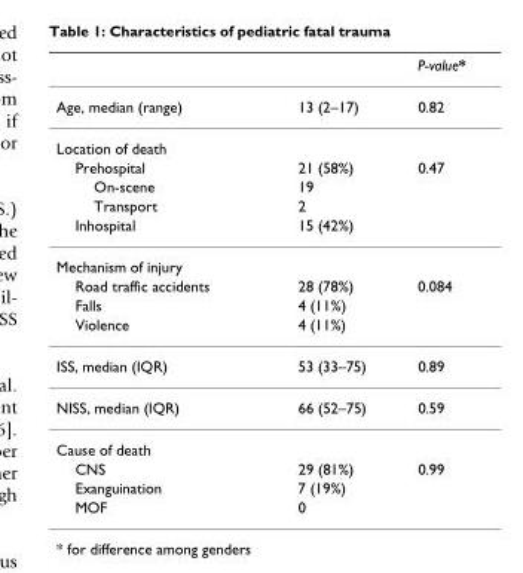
<table><thead><tr><td></td><td></td><td>P-value*</td></tr></thead><tbody><tr><td>Age, median (range)</td><td>13 (2–17)</td><td>0.82</td></tr><tr><td colspan="3">Location of death</td></tr><tr><td>Prehospital</td><td>21 (58%)</td><td>0.47</td></tr><tr><td>On-scene</td><td>19</td><td></td></tr><tr><td>Transport</td><td>2</td><td></td></tr><tr><td>Inhospital</td><td>15 (42%)</td><td></td></tr><tr><td colspan="3">Mechanism of injury</td></tr><tr><td>Road traffic accidents</td><td>28 (78%)</td><td>0.084</td></tr><tr><td>Falls</td><td>4 (11%)</td><td></td></tr><tr><td>Violence</td><td>4 (11%)</td><td></td></tr><tr><td>ISS, median (IQR)</td><td>53 (33–75)</td><td>0.89</td></tr><tr><td>NISS, median (IQR)</td><td>66 (52–75)</td><td>0.59</td></tr><tr><td colspan="3">Cause of death</td></tr><tr><td>CNS</td><td>29 (81%)</td><td>0.99</td></tr><tr><td>Exanguination</td><td>7 (19%)</td><td></td></tr><tr><td>MOF</td><td>0</td><td></td></tr></tbody></table>